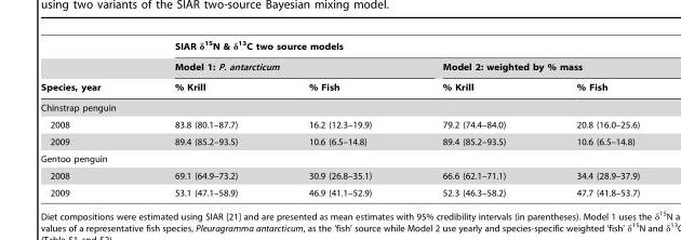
<table><thead><tr><td rowspan="3">Species, year</td><td colspan="4">SIAR δ<sup>15</sup>N &amp; δ<sup>13</sup>C two source models</td></tr><tr><td colspan="2">Model 1: P. antarcticum</td><td colspan="2">Model 2: weighted by % mass</td></tr><tr><td>% Krill</td><td>% Fish</td><td>% Krill</td><td>% Fish</td></tr></thead><tbody><tr><td colspan="5">Chinstrap penguin</td></tr><tr><td>2008</td><td>83.8 (80.1–87.7)</td><td>16.2 (12.3–19.9)</td><td>79.2 (74.4–84.0)</td><td>20.8 (16.0–25.6)</td></tr><tr><td>2009</td><td>89.4 (85.2–93.5)</td><td>10.6 (6.5–14.8)</td><td>89.4 (85.2–93.5)</td><td>10.6 (6.5–14.8)</td></tr><tr><td colspan="5">Gentoo penguin</td></tr><tr><td>2008</td><td>69.1 (64.9–73.2)</td><td>30.9 (26.8–35.1)</td><td>66.6 (62.1–71.1)</td><td>34.4 (28.9–37.9)</td></tr><tr><td>2009</td><td>53.1 (47.1–58.9)</td><td>46.9 (41.1–52.9)</td><td>52.3 (46.3–58.2)</td><td>47.7 (41.8–53.7)</td></tr></tbody></table>